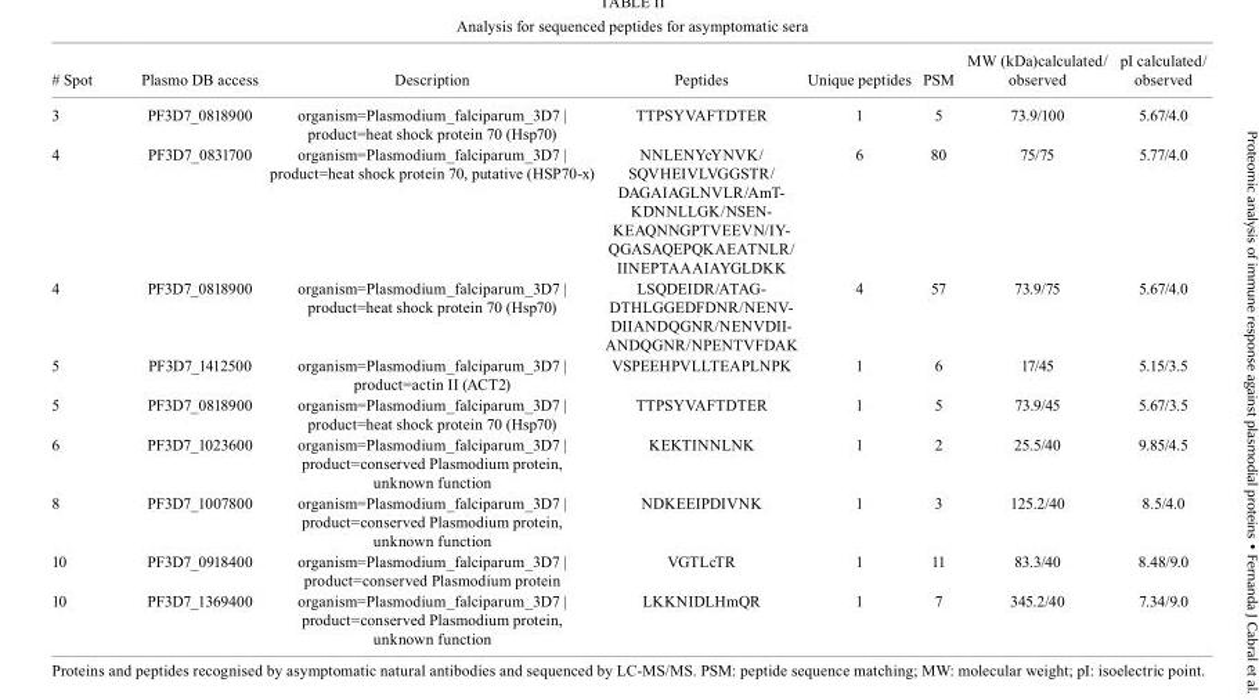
<table><thead><tr><td># Spot</td><td>Plasmo DB access</td><td>Description</td><td>Peptides</td><td>Unique peptides</td><td>PSM</td><td>MW (kDa)calculated/ observed</td><td>pI calculated/ observed</td></tr></thead><tbody><tr><td>3</td><td>PF3D7_0818900</td><td>organism=Plasmodium_falciparum_3D7 | product=heat shock protein 70 (Hsp70)</td><td>TTPSYVAFTDTER</td><td>1</td><td>5</td><td>73.9/100</td><td>5.67/4.0</td></tr><tr><td>4</td><td>PF3D7_0831700</td><td>organism=Plasmodium_falciparum_3D7 | product=heat shock protein 70, putative (HSP70-x)</td><td>NNLENYcYNVK/ SQVHEIVLVGGSTR/ DAGAIAGLNVLR/AmT- KDNNLLGK/NSEN- KEAQNNGPTVEEVN/IY- QGASAQEPQKAEATNLR/ IINEPTAAAIAYGLDKK</td><td>6</td><td>80</td><td>75/75</td><td>5.77/4.0</td></tr><tr><td>4</td><td>PF3D7_0818900</td><td>organism=Plasmodium_falciparum_3D7 | product=heat shock protein 70 (Hsp70)</td><td>LSQDEIDR/ATAG- DTHLGGEDFDNR/NENV- DIIANDQGNR/NENVDII- ANDQGNR/NPENTVFDAK</td><td>4</td><td>57</td><td>73.9/75</td><td>5.67/4.0</td></tr><tr><td>5</td><td>PF3D7_1412500</td><td>organism=Plasmodium_falciparum_3D7 | product=actin II (ACT2)</td><td>VSPEEHPVLLTEAPLNPK</td><td>1</td><td>6</td><td>17/45</td><td>5.15/3.5</td></tr><tr><td>5</td><td>PF3D7_0818900</td><td>organism=Plasmodium_falciparum_3D7 | product=heat shock protein 70 (Hsp70)</td><td>TTPSYVAFTDTER</td><td>1</td><td>5</td><td>73.9/45</td><td>5.67/3.5</td></tr><tr><td>6</td><td>PF3D7_1023600</td><td>organism=Plasmodium_falciparum_3D7 | product=conserved Plasmodium protein, unknown function</td><td>KEKTINNLNK</td><td>1</td><td>2</td><td>25.5/40</td><td>9.85/4.5</td></tr><tr><td>8</td><td>PF3D7_1007800</td><td>organism=Plasmodium_falciparum_3D7 | product=conserved Plasmodium protein, unknown function</td><td>NDKEEIPDIVNK</td><td>1</td><td>3</td><td>125.2/40</td><td>8.5/4.0</td></tr><tr><td>10</td><td>PF3D7_0918400</td><td>organism=Plasmodium_falciparum_3D7 | product=conserved Plasmodium protein</td><td>VGTLcTR</td><td>1</td><td>11</td><td>83.3/40</td><td>8.48/9.0</td></tr><tr><td>10</td><td>PF3D7_1369400</td><td>organism=Plasmodium_falciparum_3D7 | product=conserved Plasmodium protein, unknown function</td><td>LKKNIDLHmQR</td><td>1</td><td>7</td><td>345.2/40</td><td>7.34/9.0</td></tr></tbody></table>